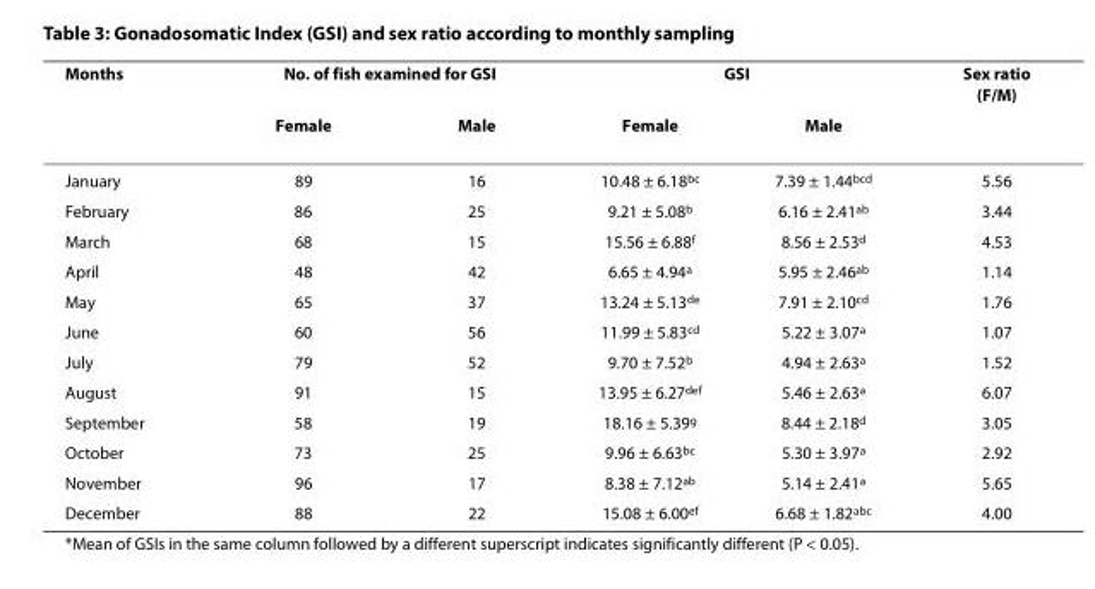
<table><thead><tr><td rowspan="2">Months</td><td colspan="2">No. of fish examined for GSI</td><td colspan="2">GSI</td><td rowspan="2">Sex ratio (F/M)</td></tr><tr><td>Female</td><td>Male</td><td>Female</td><td>Male</td></tr></thead><tbody><tr><td>January</td><td>89</td><td>16</td><td>10.48 ± 6.18<sup>bc</sup></td><td>7.39 ± 1.44<sup>bcd</sup></td><td>5.56</td></tr><tr><td>February</td><td>86</td><td>25</td><td>9.21 ± 5.08<sup>b</sup></td><td>6.16 ± 2.41<sup>ab</sup></td><td>3.44</td></tr><tr><td>March</td><td>68</td><td>15</td><td>15.56 ± 6.88<sup>f</sup></td><td>8.56 ± 2.53<sup>d</sup></td><td>4.53</td></tr><tr><td>April</td><td>48</td><td>42</td><td>6.65 ± 4.94<sup>a</sup></td><td>5.95 ± 2.46<sup>ab</sup></td><td>1.14</td></tr><tr><td>May</td><td>65</td><td>37</td><td>13.24 ± 5.13<sup>de</sup></td><td>7.91 ± 2.10<sup>cd</sup></td><td>1.76</td></tr><tr><td>June</td><td>60</td><td>56</td><td>11.99 ± 5.83<sup>cd</sup></td><td>5.22 ± 3.07<sup>a</sup></td><td>1.07</td></tr><tr><td>July</td><td>79</td><td>52</td><td>9.70 ± 7.52<sup>b</sup></td><td>4.94 ± 2.63<sup>a</sup></td><td>1.52</td></tr><tr><td>August</td><td>91</td><td>15</td><td>13.95 ± 6.27<sup>def</sup></td><td>5.46 ± 2.63<sup>a</sup></td><td>6.07</td></tr><tr><td>September</td><td>58</td><td>19</td><td>18.16 ± 5.39<sup>g</sup></td><td>8.44 ± 2.18<sup>d</sup></td><td>3.05</td></tr><tr><td>October</td><td>73</td><td>25</td><td>9.96 ± 6.63<sup>bc</sup></td><td>5.30 ± 3.97<sup>a</sup></td><td>2.92</td></tr><tr><td>November</td><td>96</td><td>17</td><td>8.38 ± 7.12<sup>ab</sup></td><td>5.14 ± 2.41<sup>a</sup></td><td>5.65</td></tr><tr><td>December</td><td>88</td><td>22</td><td>15.08 ± 6.00<sup>ef</sup></td><td>6.68 ± 1.82<sup>abc</sup></td><td>4.00</td></tr></tbody></table>